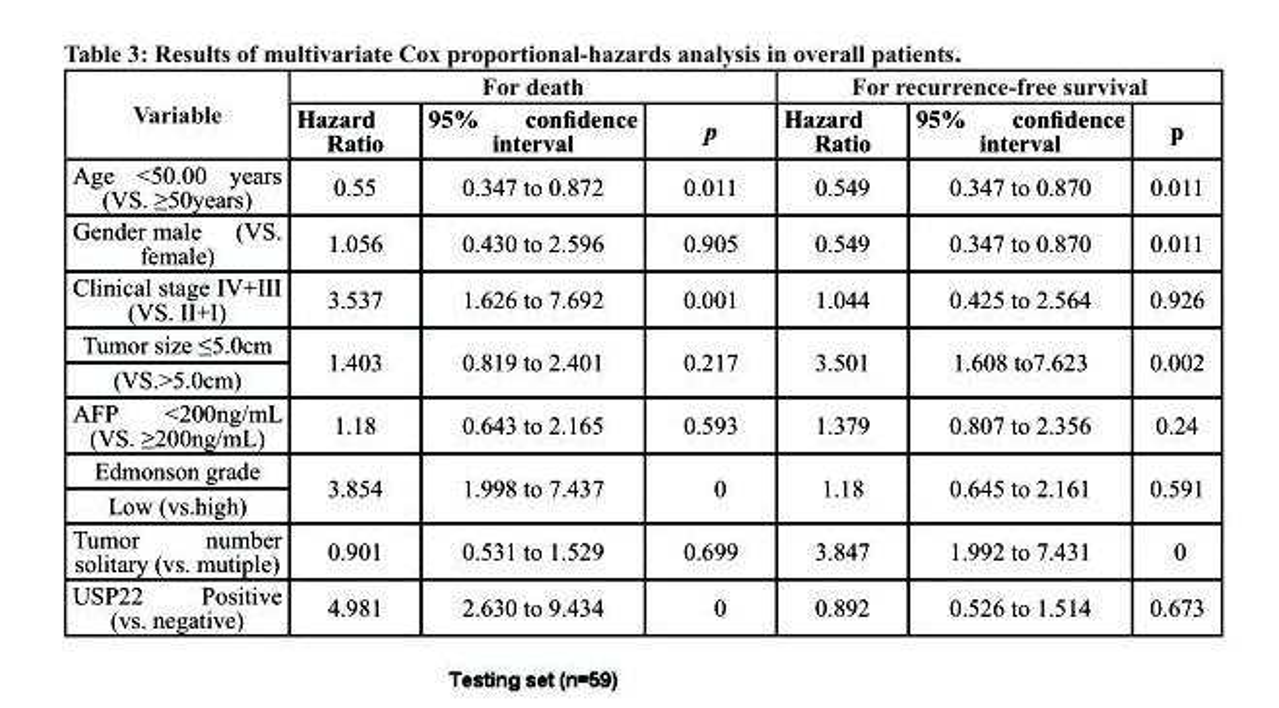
<table><thead><tr><td rowspan="2">Variable</td><td colspan="3">For death</td><td colspan="3">For recurrence-free survival</td></tr><tr><td>Hazard ratio</td><td>95% confidence interval</td><td>p</td><td>Hazard ratio</td><td>95% confidence interval</td><td>p</td></tr></thead><tbody><tr><td>Age &lt;50.00 years (VS. ≥50years)</td><td>0.55</td><td>0.347 to 0.872</td><td>0.011</td><td>0.549</td><td>0.347 to 0.870</td><td>0.011</td></tr><tr><td>Gender male (VS. female)</td><td>1.056</td><td>0.430 to 2.596</td><td>0.905</td><td>0.549</td><td>0.347 to 0.870</td><td>0.011</td></tr><tr><td>Clinical stage IV+III (VS. II+I)</td><td>3.537</td><td>1.626 to 7.692</td><td>0.001</td><td>1.044</td><td>0.425 to 2.564</td><td>0.926</td></tr><tr><td>Tumor size ≤5.0cm</td><td rowspan="2">1.403</td><td rowspan="2">0.819 to 2.401</td><td rowspan="2">0.217</td><td rowspan="2">3.501</td><td rowspan="2">1.608 to7.623</td><td rowspan="2">0.002</td></tr><tr><td>(VS.&gt;5.0cm)</td></tr><tr><td>AFP &lt;200ng/mL (VS. ≥200ng/mL)</td><td>1.18</td><td>0.643 to 2.165</td><td>0.593</td><td>1.379</td><td>0.807 to 2.356</td><td>0.24</td></tr><tr><td>Edmonson grade</td><td rowspan="2">3.854</td><td rowspan="2">1.998 to 7.437</td><td rowspan="2">0</td><td rowspan="2">1.18</td><td rowspan="2">0.645 to 2.161</td><td rowspan="2">0.591</td></tr><tr><td>Low (vs.high)</td></tr><tr><td>Tumor number solitary (vs. mutiple)</td><td>0.901</td><td>0.531 to 1.529</td><td>0.699</td><td>3.847</td><td>1.992 to 7.431</td><td>0</td></tr><tr><td>USP22 Positive (vs. negative)</td><td>4.981</td><td>2.630 to 9.434</td><td>0</td><td>0.892</td><td>0.526 to 1.514</td><td>0.673</td></tr></tbody></table>